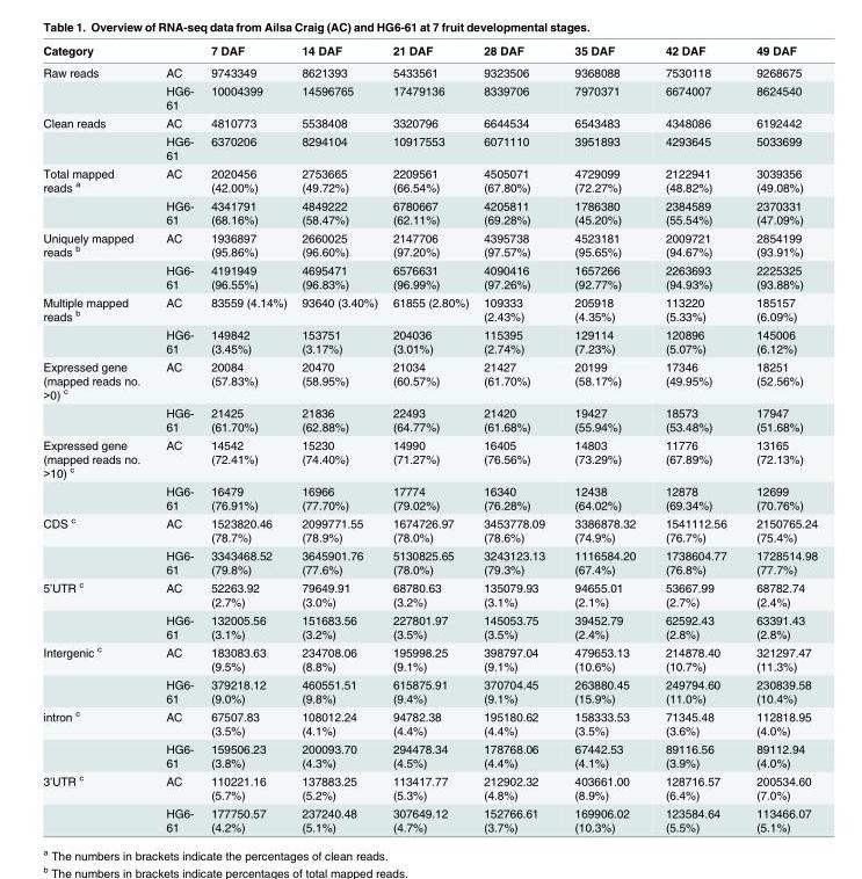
<table><thead><tr><td>Category</td><td></td><td>7 DAF</td><td>14 DAF</td><td>21 DAF</td><td>28 DAF</td><td>35 DAF</td><td>42 DAF</td><td>49 DAF</td></tr></thead><tbody><tr><td rowspan="2">Raw reads</td><td>AC</td><td>9743349</td><td>8621393</td><td>5433561</td><td>9323506</td><td>9368088</td><td>7530118</td><td>9268675</td></tr><tr><td>HG6- 61</td><td>10004399</td><td>14596765</td><td>17479136</td><td>8339706</td><td>7970371</td><td>6674007</td><td>8624540</td></tr><tr><td rowspan="2">Clean reads</td><td>AC</td><td>4810773</td><td>5538408</td><td>3320796</td><td>6644534</td><td>6543483</td><td>4348086</td><td>6192442</td></tr><tr><td>HG6- 61</td><td>6370206</td><td>8294104</td><td>10917553</td><td>6071110</td><td>3951893</td><td>4293645</td><td>5033699</td></tr><tr><td rowspan="2">Total mapped reads <sup>a</sup></td><td>AC</td><td>2020456 (42.00%)</td><td>2753665 (49.72%)</td><td>2209561 (66.54%)</td><td>4505071 (67.80%)</td><td>4729099 (72.27%)</td><td>2122941 (48.82%)</td><td>3039356 (49.08%)</td></tr><tr><td>HG6- 61</td><td>4341791 (68.16%)</td><td>4849222 (58.47%)</td><td>6780667 (62.11%)</td><td>4205811 (69.28%)</td><td>1786380 (45.20%)</td><td>2384589 (55.54%)</td><td>2370331 (47.09%)</td></tr><tr><td rowspan="2">Uniquely mapped reads <sup>b</sup></td><td>AC</td><td>1936897 (95.86%)</td><td>2660025 (96.60%)</td><td>2147706 (97.20%)</td><td>4395738 (97.57%)</td><td>4523181 (95.65%)</td><td>2009721 (94.67%)</td><td>2854199 (93.91%)</td></tr><tr><td>HG6- 61</td><td>4191949 (96.55%)</td><td>4695471 (96.83%)</td><td>6576631 (96.99%)</td><td>4090416 (97.26%)</td><td>1657266 (92.77%)</td><td>2263693 (94.93%)</td><td>2225325 (93.88%)</td></tr><tr><td rowspan="2">Multiple mapped reads <sup>b</sup></td><td>AC</td><td>83559 (4.14%)</td><td>93640 (3.40%)</td><td>61855 (2.80%)</td><td>109333 (2.43%)</td><td>205918 (4.35%)</td><td>113220 (5.33%)</td><td>185157 (6.09%)</td></tr><tr><td>HG6- 61</td><td>149842 (3.45%)</td><td>153751 (3.17%)</td><td>204036 (3.01%)</td><td>115395 (2.74%)</td><td>129114 (7.23%)</td><td>120896 (5.07%)</td><td>145006 (6.12%)</td></tr><tr><td rowspan="2">Expressed gene (mapped reads no. &gt;0) <sup>c</sup></td><td>AC</td><td>20084 (57.83%)</td><td>20470 (58.95%)</td><td>21034 (60.57%)</td><td>21427 (61.70%)</td><td>20199 (58.17%)</td><td>17346 (49.95%)</td><td>18251 (52.56%)</td></tr><tr><td>HG6- 61</td><td>21425 (61.70%)</td><td>21836 (62.88%)</td><td>22493 (64.77%)</td><td>21420 (61.68%)</td><td>19427 (55.94%)</td><td>18573 (53.48%)</td><td>17947 (51.68%)</td></tr><tr><td rowspan="2">Expressed gene (mapped reads no. &gt;10) <sup>c</sup></td><td>AC</td><td>14542 (72.41%)</td><td>15230 (74.40%)</td><td>14990 (71.27%)</td><td>16405 (76.56%)</td><td>14803 (73.29%)</td><td>11776 (67.89%)</td><td>13165 (72.13%)</td></tr><tr><td>HG6- 61</td><td>16479 (76.91%)</td><td>16966 (77.70%)</td><td>17774 (79.02%)</td><td>16340 (76.28%)</td><td>12438 (64.02%)</td><td>12878 (69.34%)</td><td>12699 (70.76%)</td></tr><tr><td rowspan="2">CDS <sup>c</sup></td><td>AC</td><td>1523820.46 (78.7%)</td><td>2099771.55 (78.9%)</td><td>1674726.97 (78.0%)</td><td>3453778.09 (78.6%)</td><td>3386878.32 (74.9%)</td><td>1541112.56 (76.7%)</td><td>2150765.24 (75.4%)</td></tr><tr><td>HG6- 61</td><td>3343468.52 (79.8%)</td><td>3645901.76 (77.6%)</td><td>5130825.65 (78.0%)</td><td>3243123.13 (79.3%)</td><td>1116584.20 (67.4%)</td><td>1738604.77 (76.8%)</td><td>1728514.98 (77.7%)</td></tr><tr><td rowspan="2">5’UTR <sup>c</sup></td><td>AC</td><td>52263.92 (2.7%)</td><td>79649.91 (3.0%)</td><td>68780.63 (3.2%)</td><td>135079.93 (3.1%)</td><td>94655.01 (2.1%)</td><td>53667.99 (2.7%)</td><td>68782.74 (2.4%)</td></tr><tr><td>HG6- 61</td><td>132005.56 (3.1%)</td><td>151683.56 (3.2%)</td><td>227801.97 (3.5%)</td><td>145053.75 (3.5%)</td><td>39452.79 (2.4%)</td><td>62592.43 (2.8%)</td><td>63391.43 (2.8%)</td></tr><tr><td rowspan="2">Intergenic <sup>c</sup></td><td>AC</td><td>183083.63 (9.5%)</td><td>234708.06 (8.8%)</td><td>195998.25 (9.1%)</td><td>398797.04 (9.1%)</td><td>479653.13 (10.6%)</td><td>214878.40 (10.7%)</td><td>321297.47 (11.3%)</td></tr><tr><td>HG6- 61</td><td>379218.12 (9.0%)</td><td>460551.51 (9.8%)</td><td>615875.91 (9.4%)</td><td>370704.45 (9.1%)</td><td>263880.45 (15.9%)</td><td>249794.60 (11.0%)</td><td>230839.58 (10.4%)</td></tr><tr><td rowspan="2">intron <sup>c</sup></td><td>AC</td><td>67507.83 (3.5%)</td><td>108012.24 (4.1%)</td><td>94782.38 (4.4%)</td><td>195180.62 (4.4%)</td><td>158333.53 (3.5%)</td><td>71345.48 (3.6%)</td><td>112818.95 (4.0%)</td></tr><tr><td>HG6- 61</td><td>159506.23 (3.8%)</td><td>200093.70 (4.3%)</td><td>294478.34 (4.5%)</td><td>178768.06 (4.4%)</td><td>67442.53 (4.1%)</td><td>89116.56 (3.9%)</td><td>89112.94 (4.0%)</td></tr><tr><td rowspan="2">3’UTR <sup>c</sup></td><td>AC</td><td>110221.16 (5.7%)</td><td>137883.25 (5.2%)</td><td>113417.77 (5.3%)</td><td>212902.32 (4.8%)</td><td>403661.00 (8.9%)</td><td>128716.57 (6.4%)</td><td>200534.60 (7.0%)</td></tr><tr><td>HG6- 61</td><td>177750.57 (4.2%)</td><td>237240.48 (5.1%)</td><td>307649.12 (4.7%)</td><td>152766.61 (3.7%)</td><td>169906.02 (10.3%)</td><td>123584.64 (5.5%)</td><td>113466.07 (5.1%)</td></tr></tbody></table>